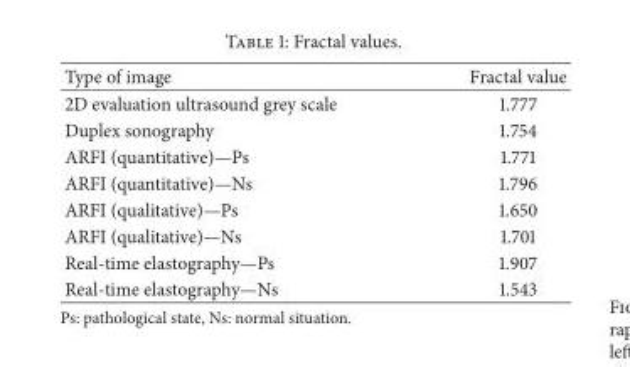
<table><thead><tr><td>Type of image</td><td>Fractal value</td></tr></thead><tbody><tr><td>2D evaluation ultrasound grey scale</td><td>1.777</td></tr><tr><td>Duplex sonography</td><td>1.754</td></tr><tr><td>ARFI (quantitative)—Ps</td><td>1.771</td></tr><tr><td>ARFI (quantitative)—Ns</td><td>1.796</td></tr><tr><td>ARFI (qualitative)—Ps</td><td>1.650</td></tr><tr><td>ARFI (qualitative)—Ns</td><td>1.701</td></tr><tr><td>Real-time elastography—Ps</td><td>1.907</td></tr><tr><td>Real-time elastography—Ns</td><td>1.543</td></tr></tbody></table>